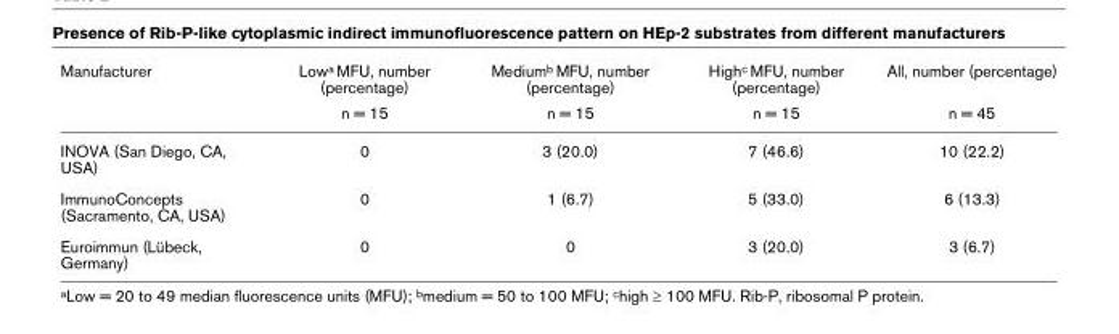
<table><thead><tr><td rowspan="2">Manufacturer</td><td rowspan="2">Low<sup>a</sup> MFU, number (percentage) n = 15</td><td rowspan="2">Medium<sup>b</sup> MFU, number (percentage) n = 15</td><td rowspan="2">High<sup>c</sup> MFU, number (percentage) n = 15</td><td rowspan="2">All, number (percentage) n = 45</td></tr><tr></tr></thead><tbody><tr><td>INOVA (San Diego, CA, USA)</td><td>0</td><td>3 (20.0)</td><td>7 (46.6)</td><td>10 (22.2)</td></tr><tr><td>ImmunoConcepts (Sacramento, CA, USA)</td><td>0</td><td>1 (6.7)</td><td>5 (33.0)</td><td>6 (13.3)</td></tr><tr><td>Euroimmun (Lübeck, Germany)</td><td>0</td><td>0</td><td>3 (20.0)</td><td>3 (6.7)</td></tr></tbody></table>